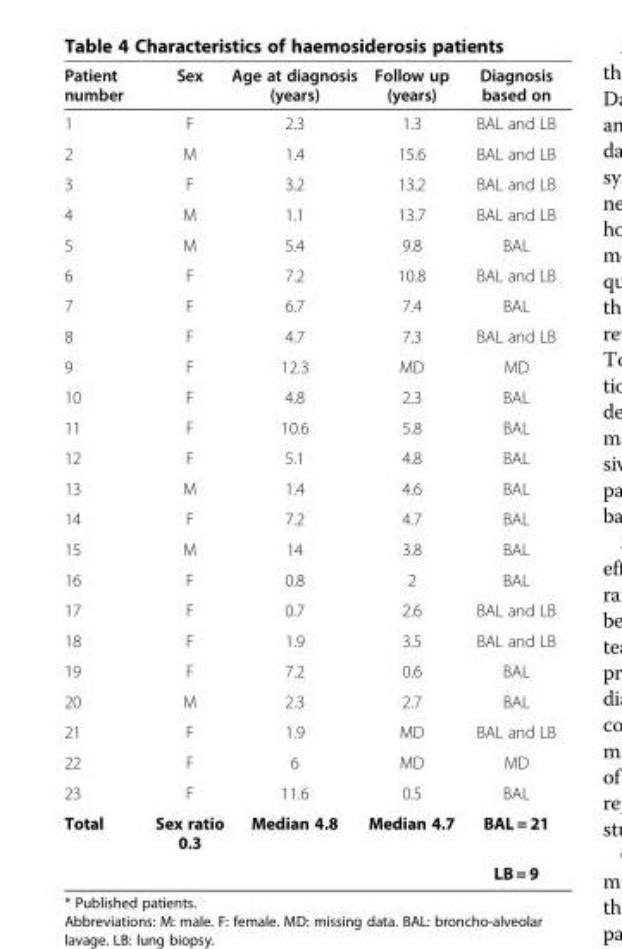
<table><thead><tr><td>Patient number</td><td>Sex</td><td>Age at diagnosis (years)</td><td>Follow up (years)</td><td>Diagnosis based on</td></tr></thead><tbody><tr><td>1</td><td>F</td><td>2.3</td><td>1.3</td><td>BAL and LB</td></tr><tr><td>2</td><td>M</td><td>1.4</td><td>15.6</td><td>BAL and LB</td></tr><tr><td>3</td><td>F</td><td>3.2</td><td>13.2</td><td>BAL and LB</td></tr><tr><td>4</td><td>M</td><td>1.1</td><td>13.7</td><td>BAL and LB</td></tr><tr><td>5</td><td>M</td><td>5.4</td><td>9.8</td><td>BAL</td></tr><tr><td>6</td><td>F</td><td>7.2</td><td>10.8</td><td>BAL and LB</td></tr><tr><td>7</td><td>F</td><td>6.7</td><td>7.4</td><td>BAL</td></tr><tr><td>8</td><td>F</td><td>4.7</td><td>7.3</td><td>BAL and LB</td></tr><tr><td>9</td><td>F</td><td>12.3</td><td>MD</td><td>MD</td></tr><tr><td>10</td><td>F</td><td>4.8</td><td>2.3</td><td>BAL</td></tr><tr><td>11</td><td>F</td><td>10.6</td><td>5.8</td><td>BAL</td></tr><tr><td>12</td><td>F</td><td>5.1</td><td>4.8</td><td>BAL</td></tr><tr><td>13</td><td>M</td><td>1.4</td><td>4.6</td><td>BAL</td></tr><tr><td>14</td><td>F</td><td>7.2</td><td>4.7</td><td>BAL</td></tr><tr><td>15</td><td>M</td><td>14</td><td>3.8</td><td>BAL</td></tr><tr><td>16</td><td>F</td><td>0.8</td><td>2</td><td>BAL</td></tr><tr><td>17</td><td>F</td><td>0.7</td><td>2.6</td><td>BAL and LB</td></tr><tr><td>18</td><td>F</td><td>1.9</td><td>3.5</td><td>BAL and LB</td></tr><tr><td>19</td><td>F</td><td>7.2</td><td>0.6</td><td>BAL</td></tr><tr><td>20</td><td>M</td><td>2.3</td><td>2.7</td><td>BAL</td></tr><tr><td>21</td><td>F</td><td>1.9</td><td>MD</td><td>BAL and LB</td></tr><tr><td>22</td><td>F</td><td>6</td><td>MD</td><td>MD</td></tr><tr><td>23</td><td>F</td><td>11.6</td><td>0.5</td><td>BAL</td></tr><tr><td rowspan="2">Total</td><td>Sex ratio 0.3</td><td>Median 4.8</td><td>Median 4.7</td><td>BAL = 21</td></tr><tr><td></td><td></td><td></td><td>LB = 9</td></tr></tbody></table>